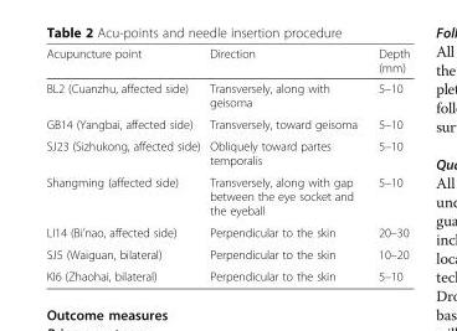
<table><thead><tr><td>Acupuncture point</td><td>Direction</td><td>Depth (mm)</td></tr></thead><tbody><tr><td>BL2 (Cuanzhu, affected side)</td><td>Transversely, along with geisoma</td><td>5–10</td></tr><tr><td>GB14 (Yangbai, affected side)</td><td>Transversely, toward geisoma</td><td>5–10</td></tr><tr><td>SJ23 (Sizhukong, affected side)</td><td>Obliquely toward partes temporalis</td><td>5–10</td></tr><tr><td>Shangming (affected side)</td><td>Transversely, along with gap between the eye socket and the eyeball</td><td>5–10</td></tr><tr><td>LI14 (Bi’nao, affected side)</td><td>Perpendicular to the skin</td><td>20–30</td></tr><tr><td>SJ5 (Waiguan, bilateral)</td><td>Perpendicular to the skin</td><td>10–20</td></tr><tr><td>KI6 (Zhaohai, bilateral)</td><td>Perpendicular to the skin</td><td>5–10</td></tr></tbody></table>